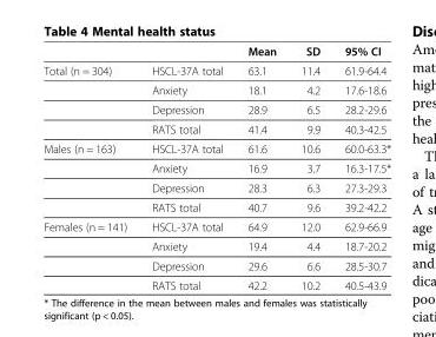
<table><thead><tr><td></td><td></td><td>Mean</td><td>SD</td><td>95% CI</td></tr></thead><tbody><tr><td rowspan="4">Total (n = 304)</td><td>HSCL-37A total</td><td>63.1</td><td>11.4</td><td>61.9-64.4</td></tr><tr><td>Anxiety</td><td>18.1</td><td>4.2</td><td>17.6-18.6</td></tr><tr><td>Depression</td><td>28.9</td><td>6.5</td><td>28.2-29.6</td></tr><tr><td>RATS total</td><td>41.4</td><td>9.9</td><td>40.3-42.5</td></tr><tr><td rowspan="4">Males (n = 163)</td><td>HSCL-37A total</td><td>61.6</td><td>10.6</td><td>60.0-63.3*</td></tr><tr><td>Anxiety</td><td>16.9</td><td>3.7</td><td>16.3-17.5*</td></tr><tr><td>Depression</td><td>28.3</td><td>6.3</td><td>27.3-29.3</td></tr><tr><td>RATS total</td><td>40.7</td><td>9.6</td><td>39.2-42.2</td></tr><tr><td rowspan="4">Females (n = 141)</td><td>HSCL-37A total</td><td>64.9</td><td>12.0</td><td>62.9-66.9</td></tr><tr><td>Anxiety</td><td>19.4</td><td>4.4</td><td>18.7-20.2</td></tr><tr><td>Depression</td><td>29.6</td><td>6.6</td><td>28.5-30.7</td></tr><tr><td>RATS total</td><td>42.2</td><td>10.2</td><td>40.5-43.9</td></tr></tbody></table>